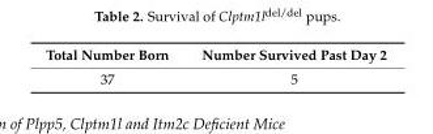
<table><thead><tr><td>Total Number Born</td><td>Number Survived Past Day 2</td></tr></thead><tbody><tr><td>37</td><td>5</td></tr></tbody></table>